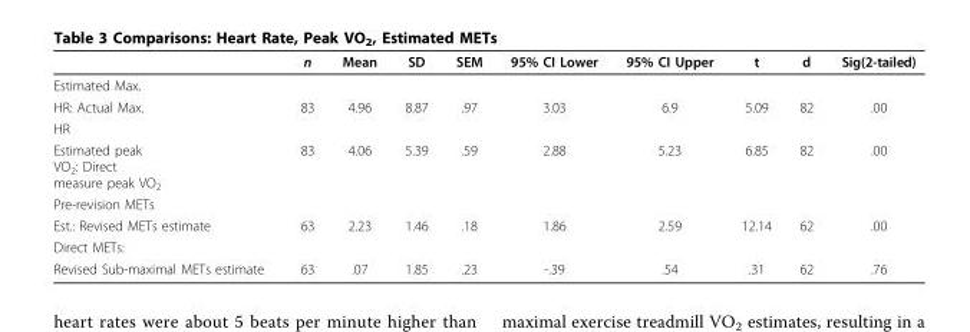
<table><thead><tr><td></td><td>n</td><td>Mean</td><td>SD</td><td>SEM</td><td>95% CI Lower</td><td>95% CI Upper</td><td>t</td><td>d</td><td>Sig(2-tailed)</td></tr></thead><tbody><tr><td colspan="10">Estimated Max.</td></tr><tr><td>HR: Actual Max.</td><td>83</td><td>4.96</td><td>8.87</td><td>.97</td><td>3.03</td><td>6.9</td><td>5.09</td><td>82</td><td>.00</td></tr><tr><td colspan="10">HR</td></tr><tr><td>Estimated peak VO<sub>2</sub>: Direct measure peak VO<sub>2</sub></td><td>83</td><td>4.06</td><td>5.39</td><td>.59</td><td>2.88</td><td>5.23</td><td>6.85</td><td>82</td><td>.00</td></tr><tr><td colspan="10">Pre-revision METs</td></tr><tr><td>Est.: Revised METs estimate</td><td>63</td><td>2.23</td><td>1.46</td><td>.18</td><td>1.86</td><td>2.59</td><td>12.14</td><td>62</td><td>.00</td></tr><tr><td colspan="10">Direct METs:</td></tr><tr><td>Revised Sub-maximal METs estimate</td><td>63</td><td>.07</td><td>1.85</td><td>.23</td><td>-.39</td><td>.54</td><td>.31</td><td>62</td><td>.76</td></tr></tbody></table>